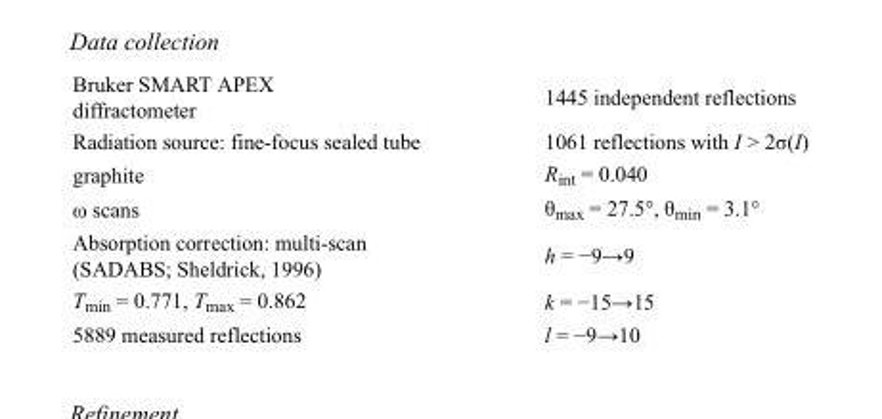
<table><tbody><tr><td>Bruker SMART APEX diffractometer</td><td>1445 independent reflections</td></tr><tr><td>Radiation source: fine-focus sealed tube</td><td>1061 reflections with I &gt; 2σ(I)</td></tr><tr><td>graphite</td><td>R<sub>int</sub> = 0.040</td></tr><tr><td>ω scans</td><td>θ<sub>max</sub> = 27.5°, θ<sub>min</sub> = 3.1°</td></tr><tr><td>Absorption correction: multi-scan (SADABS; Sheldrick, 1996)</td><td>h = −9→9</td></tr><tr><td>T<sub>min</sub> = 0.771, T<sub>max</sub> = 0.862</td><td>k = −15→15</td></tr><tr><td>5889 measured reflections</td><td>l = −9→10</td></tr></tbody></table>